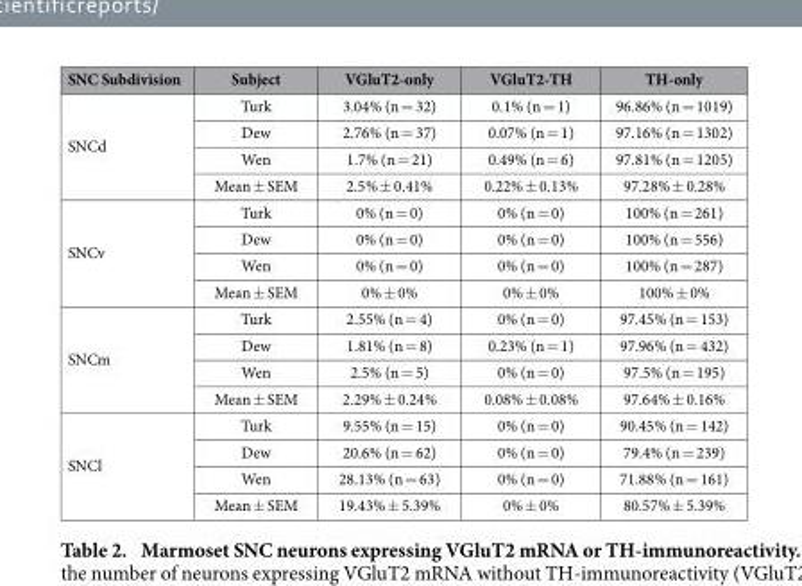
<table><thead><tr><td>SNC Subdivision</td><td>Subject</td><td>VGluT2-only</td><td>VGluT2-TH</td><td>TH-only</td></tr></thead><tbody><tr><td rowspan="4">SNCd</td><td>Turk</td><td>3.04% (n = 32)</td><td>0.1% (n = 1)</td><td>96.86% (n = 1019)</td></tr><tr><td>Dew</td><td>2.76% (n = 37)</td><td>0.07% (n = 1)</td><td>97.16% (n = 1302)</td></tr><tr><td>Wen</td><td>1.7% (n = 21)</td><td>0.49% (n = 6)</td><td>97.81% (n = 1205)</td></tr><tr><td>Mean ± SEM</td><td>2.5% ± 0.41%</td><td>0.22% ± 0.13%</td><td>97.28% ± 0.28%</td></tr><tr><td rowspan="4">SNCv</td><td>Turk</td><td>0% (n = 0)</td><td>0% (n = 0)</td><td>100% (n = 261)</td></tr><tr><td>Dew</td><td>0% (n = 0)</td><td>0% (n = 0)</td><td>100% (n = 556)</td></tr><tr><td>Wen</td><td>0% (n = 0)</td><td>0% (n = 0)</td><td>100% (n = 287)</td></tr><tr><td>Mean ± SEM</td><td>0% ± 0%</td><td>0% ± 0%</td><td>100% ± 0%</td></tr><tr><td rowspan="4">SNCm</td><td>Turk</td><td>2.55% (n = 4)</td><td>0% (n = 0)</td><td>97.45% (n = 153)</td></tr><tr><td>Dew</td><td>1.81% (n = 8)</td><td>0.23% (n = 1)</td><td>97.96% (n = 432)</td></tr><tr><td>Wen</td><td>2.5% (n = 5)</td><td>0% (n = 0)</td><td>97.5% (n = 195)</td></tr><tr><td>Mean ± SEM</td><td>2.29% ± 0.24%</td><td>0.08% ± 0.08%</td><td>97.64% ± 0.16%</td></tr><tr><td rowspan="4">SNCl</td><td>Turk</td><td>9.55% (n = 15)</td><td>0% (n = 0)</td><td>90.45% (n = 142)</td></tr><tr><td>Dew</td><td>20.6% (n = 62)</td><td>0% (n = 0)</td><td>79.4% (n = 239)</td></tr><tr><td>Wen</td><td>28.13% (n = 63)</td><td>0% (n = 0)</td><td>71.88% (n = 161)</td></tr><tr><td>Mean ± SEM</td><td>19.43% ± 5.39%</td><td>0% ± 0%</td><td>80.57% ± 5.39%</td></tr></tbody></table>